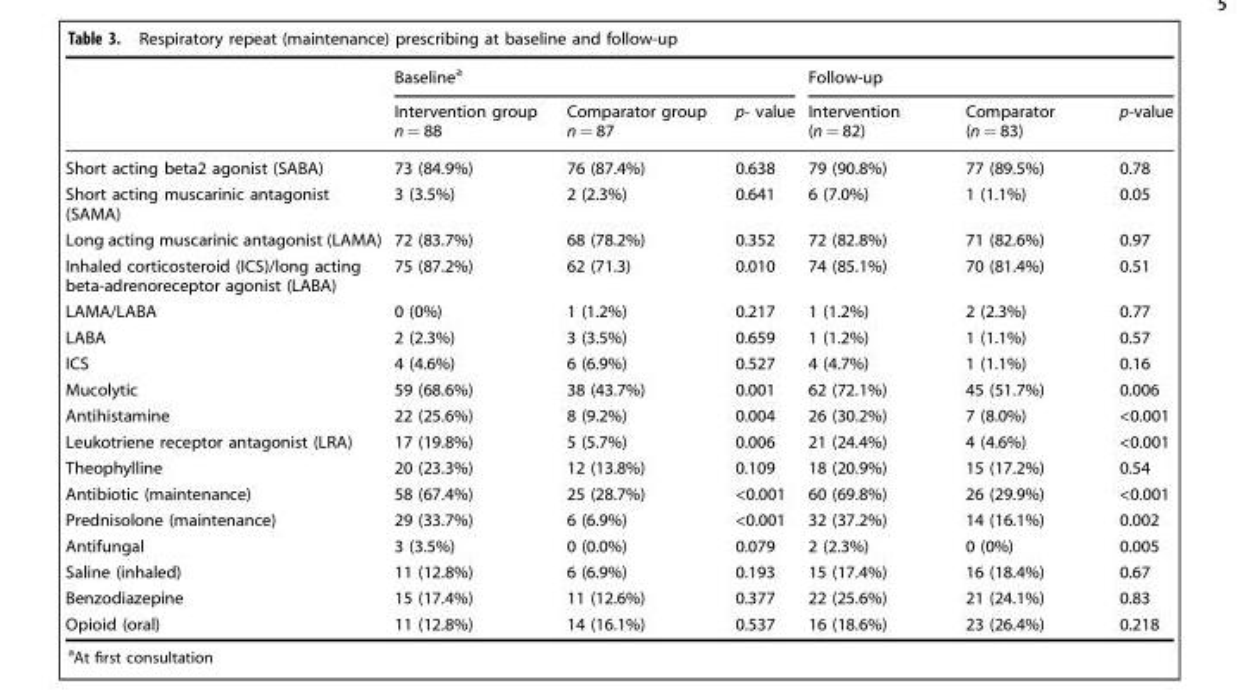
<table><thead><tr><td rowspan="2"></td><td colspan="3">Baseline<sup>a</sup></td><td colspan="3">Follow-up</td></tr><tr><td>Intervention group n = 88</td><td>Comparator group n = 87</td><td>p- value</td><td>Intervention (n = 82)</td><td>Comparator (n = 83)</td><td>p-value</td></tr></thead><tbody><tr><td>Short acting beta2 agonist (SABA)</td><td>73 (84.9%)</td><td>76 (87.4%)</td><td>0.638</td><td>79 (90.8%)</td><td>77 (89.5%)</td><td>0.78</td></tr><tr><td>Short acting muscarinic antagonist (SAMA)</td><td>3 (3.5%)</td><td>2 (2.3%)</td><td>0.641</td><td>6 (7.0%)</td><td>1 (1.1%)</td><td>0.05</td></tr><tr><td>Long acting muscarinic antagonist (LAMA)</td><td>72 (83.7%)</td><td>68 (78.2%)</td><td>0.352</td><td>72 (82.8%)</td><td>71 (82.6%)</td><td>0.97</td></tr><tr><td>Inhaled corticosteroid (ICS)/long acting beta-adrenoreceptor agonist (LABA)</td><td>75 (87.2%)</td><td>62 (71.3)</td><td>0.010</td><td>74 (85.1%)</td><td>70 (81.4%)</td><td>0.51</td></tr><tr><td>LAMA/LABA</td><td>0 (0%)</td><td>1 (1.2%)</td><td>0.217</td><td>1 (1.2%)</td><td>2 (2.3%)</td><td>0.77</td></tr><tr><td>LABA</td><td>2 (2.3%)</td><td>3 (3.5%)</td><td>0.659</td><td>1 (1.2%)</td><td>1 (1.1%)</td><td>0.57</td></tr><tr><td>ICS</td><td>4 (4.6%)</td><td>6 (6.9%)</td><td>0.527</td><td>4 (4.7%)</td><td>1 (1.1%)</td><td>0.16</td></tr><tr><td>Mucolytic</td><td>59 (68.6%)</td><td>38 (43.7%)</td><td>0.001</td><td>62 (72.1%)</td><td>45 (51.7%)</td><td>0.006</td></tr><tr><td>Antihistamine</td><td>22 (25.6%)</td><td>8 (9.2%)</td><td>0.004</td><td>26 (30.2%)</td><td>7 (8.0%)</td><td>&lt;0.001</td></tr><tr><td>Leukotriene receptor antagonist (LRA)</td><td>17 (19.8%)</td><td>5 (5.7%)</td><td>0.006</td><td>21 (24.4%)</td><td>4 (4.6%)</td><td>&lt;0.001</td></tr><tr><td>Theophylline</td><td>20 (23.3%)</td><td>12 (13.8%)</td><td>0.109</td><td>18 (20.9%)</td><td>15 (17.2%)</td><td>0.54</td></tr><tr><td>Antibiotic (maintenance)</td><td>58 (67.4%)</td><td>25 (28.7%)</td><td>&lt;0.001</td><td>60 (69.8%)</td><td>26 (29.9%)</td><td>&lt;0.001</td></tr><tr><td>Prednisolone (maintenance)</td><td>29 (33.7%)</td><td>6 (6.9%)</td><td>&lt;0.001</td><td>32 (37.2%)</td><td>14 (16.1%)</td><td>0.002</td></tr><tr><td>Antifungal</td><td>3 (3.5%)</td><td>0 (0.0%)</td><td>0.079</td><td>2 (2.3%)</td><td>0 (0%)</td><td>0.005</td></tr><tr><td>Saline (inhaled)</td><td>11 (12.8%)</td><td>6 (6.9%)</td><td>0.193</td><td>15 (17.4%)</td><td>16 (18.4%)</td><td>0.67</td></tr><tr><td>Benzodiazepine</td><td>15 (17.4%)</td><td>11 (12.6%)</td><td>0.377</td><td>22 (25.6%)</td><td>21 (24.1%)</td><td>0.83</td></tr><tr><td>Opioid (oral)</td><td>11 (12.8%)</td><td>14 (16.1%)</td><td>0.537</td><td>16 (18.6%)</td><td>23 (26.4%)</td><td>0.218</td></tr></tbody></table>